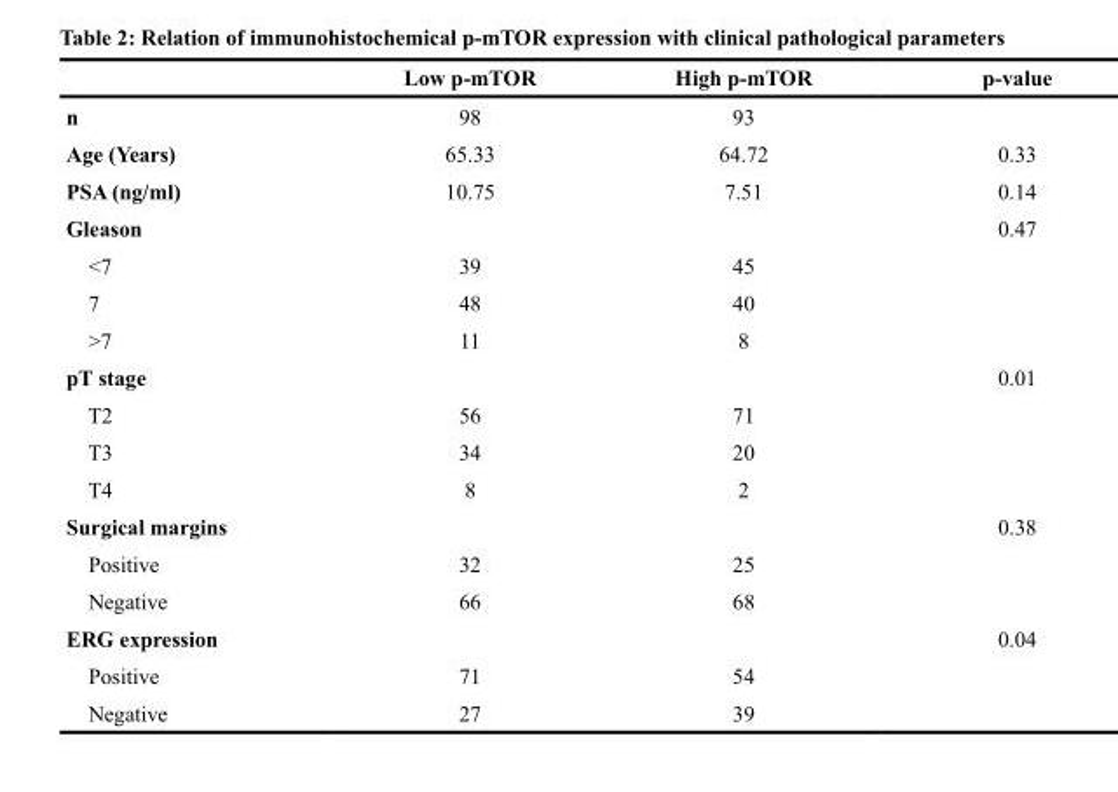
<table><thead><tr><td></td><td>Low p-mTOR</td><td>High p-mTOR</td><td>p-value</td></tr></thead><tbody><tr><td>n</td><td>98</td><td>93</td><td></td></tr><tr><td>Age (Years)</td><td>65.33</td><td>64.72</td><td>0.33</td></tr><tr><td>PSA (ng/ml)</td><td>10.75</td><td>7.51</td><td>0.14</td></tr><tr><td>Gleason</td><td></td><td></td><td>0.47</td></tr><tr><td>&lt;7</td><td>39</td><td>45</td><td></td></tr><tr><td>7</td><td>48</td><td>40</td><td></td></tr><tr><td>&gt;7</td><td>11</td><td>8</td><td></td></tr><tr><td>pT stage</td><td></td><td></td><td>0.01</td></tr><tr><td>T2</td><td>56</td><td>71</td><td></td></tr><tr><td>T3</td><td>34</td><td>20</td><td></td></tr><tr><td>T4</td><td>8</td><td>2</td><td></td></tr><tr><td>Surgical margins</td><td></td><td></td><td>0.38</td></tr><tr><td>Positive</td><td>32</td><td>25</td><td></td></tr><tr><td>Negative</td><td>66</td><td>68</td><td></td></tr><tr><td>ERG expression</td><td></td><td></td><td>0.04</td></tr><tr><td>Positive</td><td>71</td><td>54</td><td></td></tr><tr><td>Negative</td><td>27</td><td>39</td><td></td></tr></tbody></table>